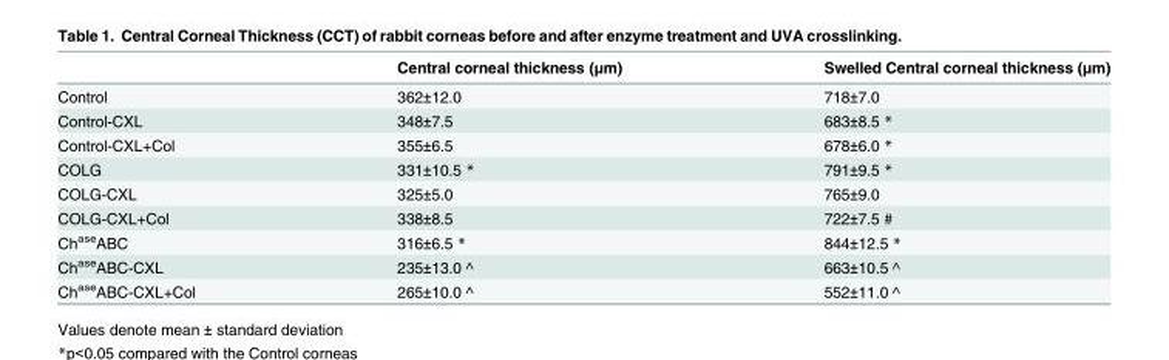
<table><thead><tr><td></td><td>Central corneal thickness (μm)</td><td>Swelled Central corneal thickness (μm)</td></tr></thead><tbody><tr><td>Control</td><td>362±12.0</td><td>718±7.0</td></tr><tr><td>Control-CXL</td><td>348±7.5</td><td>683±8.5 *</td></tr><tr><td>Control-CXL+Col</td><td>355±6.5</td><td>678±6.0 *</td></tr><tr><td>COLG</td><td>331±10.5 *</td><td>791±9.5 *</td></tr><tr><td>COLG-CXL</td><td>325±5.0</td><td>765±9.0</td></tr><tr><td>COLG-CXL+Col</td><td>338±8.5</td><td>722±7.5 #</td></tr><tr><td>Ch<sup>ase</sup>ABC</td><td>316±6.5 *</td><td>844±12.5 *</td></tr><tr><td>Ch<sup>ase</sup>ABC-CXL</td><td>235±13.0 ^</td><td>663±10.5 ^</td></tr><tr><td>Ch<sup>ase</sup>ABC-CXL+Col</td><td>265±10.0 ^</td><td>552±11.0 ^</td></tr></tbody></table>